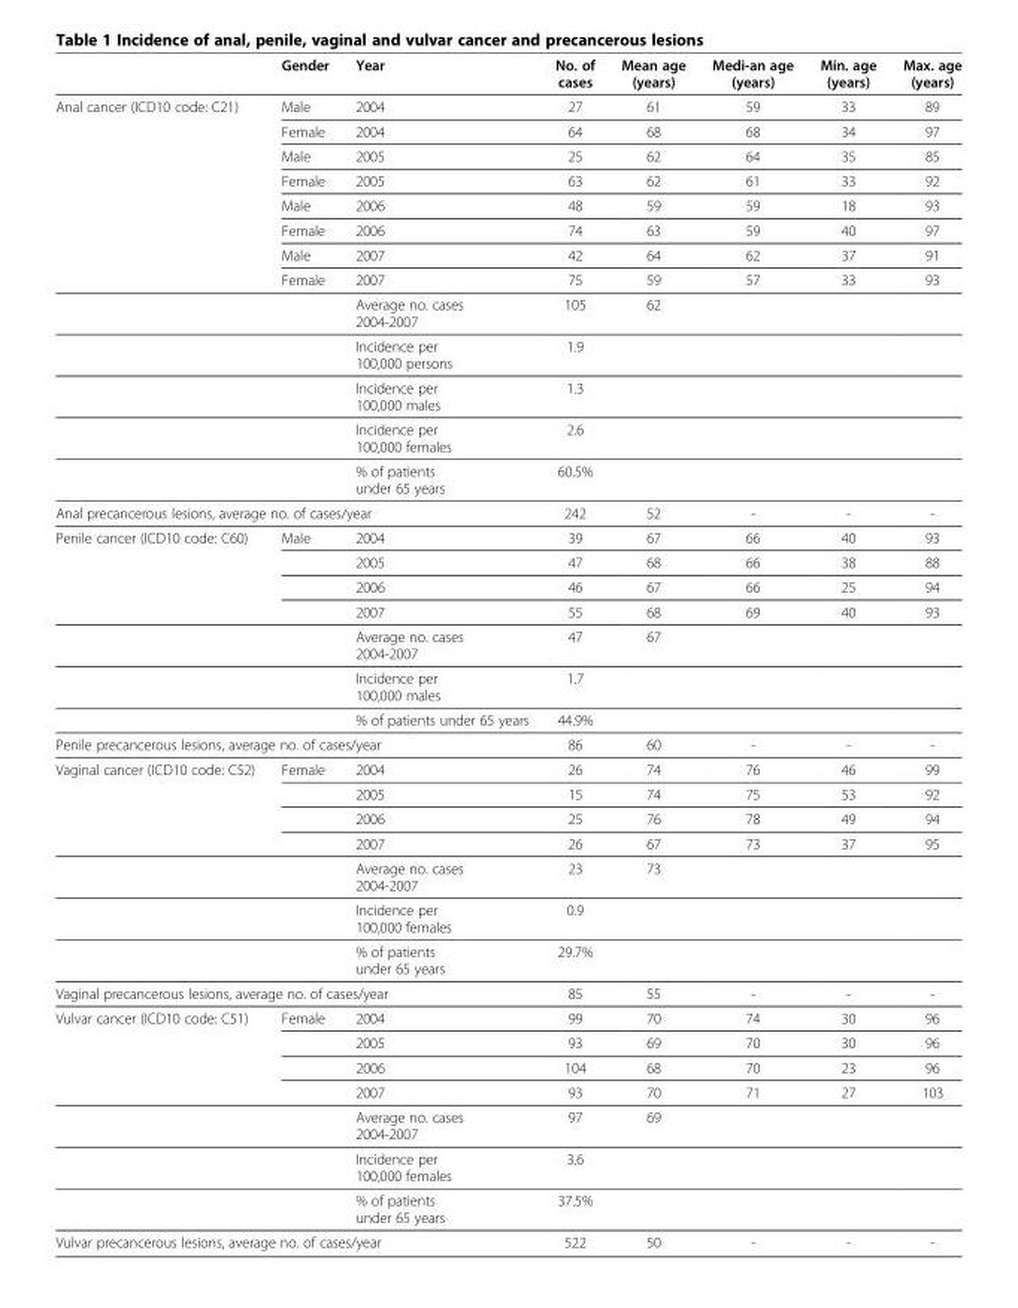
<table><thead><tr><td></td><td>Gender</td><td>Year</td><td>No. of cases</td><td>Mean age (years)</td><td>Medi-an age (years)</td><td>Min. age (years)</td><td>Max. age (years)</td></tr></thead><tbody><tr><td rowspan="13">Anal cancer (ICD10 code: C21)</td><td>Male</td><td>2004</td><td>27</td><td>61</td><td>59</td><td>33</td><td>89</td></tr><tr><td>Female</td><td>2004</td><td>64</td><td>68</td><td>68</td><td>34</td><td>97</td></tr><tr><td>Male</td><td>2005</td><td>25</td><td>62</td><td>64</td><td>35</td><td>85</td></tr><tr><td>Female</td><td>2005</td><td>63</td><td>62</td><td>61</td><td>33</td><td>92</td></tr><tr><td>Male</td><td>2006</td><td>48</td><td>59</td><td>59</td><td>18</td><td>93</td></tr><tr><td>Female</td><td>2006</td><td>74</td><td>63</td><td>59</td><td>40</td><td>97</td></tr><tr><td>Male</td><td>2007</td><td>42</td><td>64</td><td>62</td><td>37</td><td>91</td></tr><tr><td>Female</td><td>2007</td><td>75</td><td>59</td><td>57</td><td>33</td><td>93</td></tr><tr><td></td><td>Average no. cases 2004-2007</td><td>105</td><td>62</td><td></td><td></td><td></td></tr><tr><td></td><td>Incidence per 100,000 persons</td><td>1.9</td><td></td><td></td><td></td><td></td></tr><tr><td></td><td>Incidence per 100,000 males</td><td>1.3</td><td></td><td></td><td></td><td></td></tr><tr><td></td><td>Incidence per 100,000 females</td><td>2.6</td><td></td><td></td><td></td><td></td></tr><tr><td></td><td>% of patients under 65 years</td><td>60.5%</td><td></td><td></td><td></td><td></td></tr><tr><td colspan="3">Anal precancerous lesions, average no. of cases/year</td><td>242</td><td>52</td><td>-</td><td>-</td><td>-</td></tr><tr><td rowspan="7">Penile cancer (ICD10 code: C60)</td><td>Male</td><td>2004</td><td>39</td><td>67</td><td>66</td><td>40</td><td>93</td></tr><tr><td></td><td>2005</td><td>47</td><td>68</td><td>66</td><td>38</td><td>88</td></tr><tr><td></td><td>2006</td><td>46</td><td>67</td><td>66</td><td>25</td><td>94</td></tr><tr><td></td><td>2007</td><td>55</td><td>68</td><td>69</td><td>40</td><td>93</td></tr><tr><td></td><td>Average no. cases 2004-2007</td><td>47</td><td>67</td><td></td><td></td><td></td></tr><tr><td></td><td>Incidence per 100,000 males</td><td>1.7</td><td></td><td></td><td></td><td></td></tr><tr><td></td><td>% of patients under 65 years</td><td>44.9%</td><td></td><td></td><td></td><td></td></tr><tr><td colspan="3">Penile precancerous lesions, average no. of cases/year</td><td>86</td><td>60</td><td>-</td><td>-</td><td>-</td></tr><tr><td rowspan="7">Vaginal cancer (ICD10 code: C52)</td><td>Female</td><td>2004</td><td>26</td><td>74</td><td>76</td><td>46</td><td>99</td></tr><tr><td></td><td>2005</td><td>15</td><td>74</td><td>75</td><td>53</td><td>92</td></tr><tr><td></td><td>2006</td><td>25</td><td>76</td><td>78</td><td>49</td><td>94</td></tr><tr><td></td><td>2007</td><td>26</td><td>67</td><td>73</td><td>37</td><td>95</td></tr><tr><td></td><td>Average no. cases 2004-2007</td><td>23</td><td>73</td><td></td><td></td><td></td></tr><tr><td></td><td>Incidence per 100,000 females</td><td>0.9</td><td></td><td></td><td></td><td></td></tr><tr><td></td><td>% of patients under 65 years</td><td>29.7%</td><td></td><td></td><td></td><td></td></tr><tr><td colspan="3">Vaginal precancerous lesions, average no. of cases/year</td><td>85</td><td>55</td><td>-</td><td>-</td><td>-</td></tr><tr><td rowspan="7">Vulvar cancer (ICD10 code: C51)</td><td>Female</td><td>2004</td><td>99</td><td>70</td><td>74</td><td>30</td><td>96</td></tr><tr><td></td><td>2005</td><td>93</td><td>69</td><td>70</td><td>30</td><td>96</td></tr><tr><td></td><td>2006</td><td>104</td><td>68</td><td>70</td><td>23</td><td>96</td></tr><tr><td></td><td>2007</td><td>93</td><td>70</td><td>71</td><td>27</td><td>103</td></tr><tr><td></td><td>Average no. cases 2004-2007</td><td>97</td><td>69</td><td></td><td></td><td></td></tr><tr><td></td><td>Incidence per 100,000 females</td><td>3.6</td><td></td><td></td><td></td><td></td></tr><tr><td></td><td>% of patients under 65 years</td><td>37.5%</td><td></td><td></td><td></td><td></td></tr><tr><td colspan="3">Vulvar precancerous lesions, average no. of cases/year</td><td>522</td><td>50</td><td>-</td><td>-</td><td>-</td></tr></tbody></table>